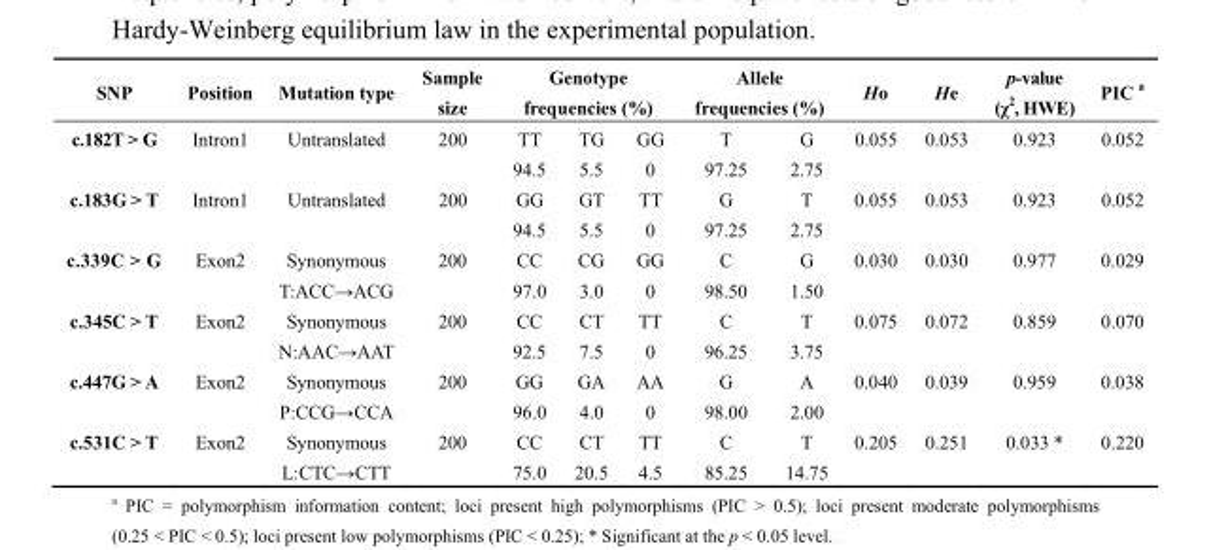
<table><thead><tr><td rowspan="2">SNP c.182T &gt; G</td><td rowspan="2">Position Intron1</td><td rowspan="2">Mutation type Untranslated</td><td rowspan="2">Sample size 200</td><td colspan="3">Genotype frequencies (%)</td><td colspan="2">Allele frequencies (%)</td><td rowspan="2">Ho 0.055</td><td rowspan="2">He 0.053</td><td rowspan="2">p-value (χ<sup>2</sup>, HWE) 0.923</td><td rowspan="2">PIC a 0.052</td></tr><tr><td>TT</td><td>TG</td><td>GG</td><td>T</td><td>G</td></tr></thead><tbody><tr><td></td><td></td><td></td><td></td><td>94.5</td><td>5.5</td><td>0</td><td>97.25</td><td>2.75</td><td></td><td></td><td></td><td></td></tr><tr><td rowspan="2">c.183G &gt; T</td><td>Intron1</td><td>Untranslated</td><td>200</td><td>GG</td><td>GT</td><td>TT</td><td>G</td><td>T</td><td>0.055</td><td>0.053</td><td>0.923</td><td>0.052</td></tr><tr><td></td><td></td><td></td><td>94.5</td><td>5.5</td><td>0</td><td>97.25</td><td>2.75</td><td></td><td></td><td></td><td></td></tr><tr><td rowspan="2">c.339C &gt; G</td><td>Exon2</td><td>Synonymous</td><td>200</td><td>CC</td><td>CG</td><td>GG</td><td>C</td><td>G</td><td>0.030</td><td>0.030</td><td>0.977</td><td>0.029</td></tr><tr><td></td><td>T:ACC→ACG</td><td></td><td>97.0</td><td>3.0</td><td>0</td><td>98.50</td><td>1.50</td><td></td><td></td><td></td><td></td></tr><tr><td rowspan="2">c.345C &gt; T</td><td>Exon2</td><td>Synonymous</td><td>200</td><td>CC</td><td>CT</td><td>TT</td><td>C</td><td>T</td><td>0.075</td><td>0.072</td><td>0.859</td><td>0.070</td></tr><tr><td></td><td>N:AAC→AAT</td><td></td><td>92.5</td><td>7.5</td><td>0</td><td>96.25</td><td>3.75</td><td></td><td></td><td></td><td></td></tr><tr><td rowspan="2">c.447G &gt; A</td><td>Exon2</td><td>Synonymous</td><td>200</td><td>GG</td><td>GA</td><td>AA</td><td>G</td><td>A</td><td>0.040</td><td>0.039</td><td>0.959</td><td>0.038</td></tr><tr><td></td><td>P:CCG→CCA</td><td></td><td>96.0</td><td>4.0</td><td>0</td><td>98.00</td><td>2.00</td><td></td><td></td><td></td><td></td></tr><tr><td rowspan="2">c.531C &gt; T</td><td>Exon2</td><td>Synonymous</td><td>200</td><td>CC</td><td>CT</td><td>TT</td><td>C</td><td>T</td><td>0.205</td><td>0.251</td><td>0.033 *</td><td>0.220</td></tr><tr><td></td><td>L:CTC→CTT</td><td></td><td>75.0</td><td>20.5</td><td>4.5</td><td>85.25</td><td>14.75</td><td></td><td></td><td></td><td></td></tr></tbody></table>